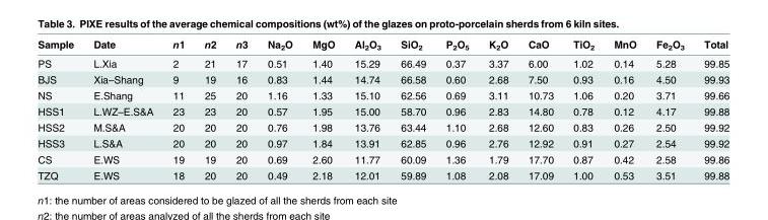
<table><thead><tr><td>Sample</td><td>Date</td><td>n1</td><td>n2</td><td>n3</td><td>Na<sub>2</sub>O</td><td>MgO</td><td>Al<sub>2</sub>O<sub>3</sub></td><td>SiO<sub>2</sub></td><td>P<sub>2</sub>O<sub>5</sub></td><td>K<sub>2</sub>O</td><td>CaO</td><td>TiO<sub>2</sub></td><td>MnO</td><td>Fe<sub>2</sub>O<sub>3</sub></td><td>Total</td></tr></thead><tbody><tr><td>PS</td><td>L.Xia</td><td>2</td><td>21</td><td>17</td><td>0.51</td><td>1.40</td><td>15.29</td><td>66.49</td><td>0.37</td><td>3.37</td><td>6.00</td><td>1.02</td><td>0.14</td><td>5.28</td><td>99.85</td></tr><tr><td>BJS</td><td>Xia–Shang</td><td>9</td><td>19</td><td>16</td><td>0.83</td><td>1.44</td><td>14.74</td><td>66.58</td><td>0.60</td><td>2.68</td><td>7.50</td><td>0.93</td><td>0.16</td><td>4.50</td><td>99.93</td></tr><tr><td>NS</td><td>E.Shang</td><td>11</td><td>25</td><td>20</td><td>1.16</td><td>1.33</td><td>15.10</td><td>62.56</td><td>0.69</td><td>3.11</td><td>10.73</td><td>1.06</td><td>0.20</td><td>3.71</td><td>99.66</td></tr><tr><td>HSS1</td><td>L.WZ–E.S&amp;A</td><td>23</td><td>23</td><td>20</td><td>0.57</td><td>1.95</td><td>15.00</td><td>58.70</td><td>0.96</td><td>2.83</td><td>14.80</td><td>0.78</td><td>0.12</td><td>4.17</td><td>99.88</td></tr><tr><td>HSS2</td><td>M.S&amp;A</td><td>20</td><td>20</td><td>20</td><td>0.76</td><td>1.98</td><td>13.76</td><td>63.44</td><td>1.10</td><td>2.68</td><td>12.60</td><td>0.83</td><td>0.26</td><td>2.50</td><td>99.92</td></tr><tr><td>HSS3</td><td>L.S&amp;A</td><td>20</td><td>20</td><td>20</td><td>0.97</td><td>1.84</td><td>13.91</td><td>62.85</td><td>0.96</td><td>2.76</td><td>12.92</td><td>0.91</td><td>0.27</td><td>2.54</td><td>99.92</td></tr><tr><td>CS</td><td>E.WS</td><td>19</td><td>19</td><td>20</td><td>0.69</td><td>2.60</td><td>11.77</td><td>60.09</td><td>1.36</td><td>1.79</td><td>17.70</td><td>0.87</td><td>0.42</td><td>2.58</td><td>99.86</td></tr><tr><td>TZQ</td><td>E.WS</td><td>18</td><td>20</td><td>20</td><td>0.49</td><td>2.18</td><td>12.01</td><td>59.89</td><td>1.08</td><td>2.08</td><td>17.09</td><td>1.00</td><td>0.53</td><td>3.51</td><td>99.88</td></tr></tbody></table>